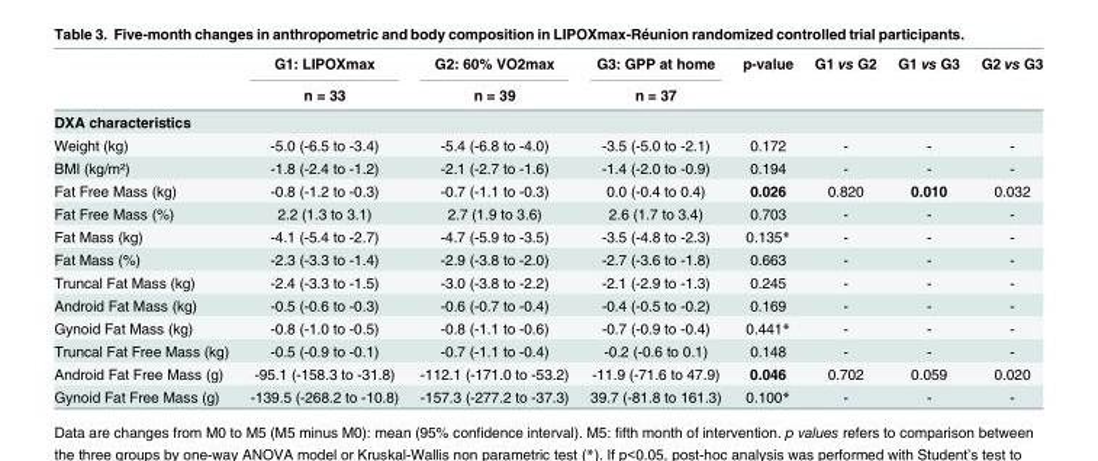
<table><thead><tr><td rowspan="2"></td><td rowspan="2">G1: LIPOXmax n = 33</td><td rowspan="2">G2: 60% VO2max n = 39</td><td rowspan="2">G3: GPP at home n = 37</td><td rowspan="2">p-value</td><td rowspan="2">G1 vs G2</td><td rowspan="2">G1 vs G3</td><td rowspan="2">G2 vs G3</td></tr><tr></tr></thead><tbody><tr><td colspan="8">DXA characteristics</td></tr><tr><td>Weight (kg)</td><td>-5.0 (-6.5 to -3.4)</td><td>-5.4 (-6.8 to -4.0)</td><td>-3.5 (-5.0 to -2.1)</td><td>0.172</td><td>-</td><td>-</td><td>-</td></tr><tr><td>BMI (kg/m²)</td><td>-1.8 (-2.4 to -1.2)</td><td>-2.1 (-2.7 to -1.6)</td><td>-1.4 (-2.0 to -0.9)</td><td>0.194</td><td>-</td><td>-</td><td>-</td></tr><tr><td>Fat Free Mass (kg)</td><td>-0.8 (-1.2 to -0.3)</td><td>-0.7 (-1.1 to -0.3)</td><td>0.0 (-0.4 to 0.4)</td><td>0.026</td><td>0.820</td><td>0.010</td><td>0.032</td></tr><tr><td>Fat Free Mass (%)</td><td>2.2 (1.3 to 3.1)</td><td>2.7 (1.9 to 3.6)</td><td>2.6 (1.7 to 3.4)</td><td>0.703</td><td>-</td><td>-</td><td>-</td></tr><tr><td>Fat Mass (kg)</td><td>-4.1 (-5.4 to -2.7)</td><td>-4.7 (-5.9 to -3.5)</td><td>-3.5 (-4.8 to -2.3)</td><td>0.135*</td><td>-</td><td>-</td><td>-</td></tr><tr><td>Fat Mass (%)</td><td>-2.3 (-3.3 to -1.4)</td><td>-2.9 (-3.8 to -2.0)</td><td>-2.7 (-3.6 to -1.8)</td><td>0.663</td><td>-</td><td>-</td><td>-</td></tr><tr><td>Truncal Fat Mass (kg)</td><td>-2.4 (-3.3 to -1.5)</td><td>-3.0 (-3.8 to -2.2)</td><td>-2.1 (-2.9 to -1.3)</td><td>0.245</td><td>-</td><td>-</td><td>-</td></tr><tr><td>Android Fat Mass (kg)</td><td>-0.5 (-0.6 to -0.3)</td><td>-0.6 (-0.7 to -0.4)</td><td>-0.4 (-0.5 to -0.2)</td><td>0.169</td><td>-</td><td>-</td><td>-</td></tr><tr><td>Gynoid Fat Mass (kg)</td><td>-0.8 (-1.0 to -0.5)</td><td>-0.8 (-1.1 to -0.6)</td><td>-0.7 (-0.9 to -0.4)</td><td>0.441*</td><td>-</td><td>-</td><td>-</td></tr><tr><td>Truncal Fat Free Mass (kg)</td><td>-0.5 (-0.9 to -0.1)</td><td>-0.7 (-1.1 to -0.4)</td><td>-0.2 (-0.6 to 0.1)</td><td>0.148</td><td>-</td><td>-</td><td>-</td></tr><tr><td>Android Fat Free Mass (g)</td><td>-95.1 (-158.3 to -31.8)</td><td>-112.1 (-171.0 to -53.2)</td><td>-11.9 (-71.6 to 47.9)</td><td>0.046</td><td>0.702</td><td>0.059</td><td>0.020</td></tr><tr><td>Gynoid Fat Free Mass (g)</td><td>-139.5 (-268.2 to -10.8)</td><td>-157.3 (-277.2 to -37.3)</td><td>39.7 (-81.8 to 161.3)</td><td>0.100*</td><td>-</td><td>-</td><td>-</td></tr></tbody></table>